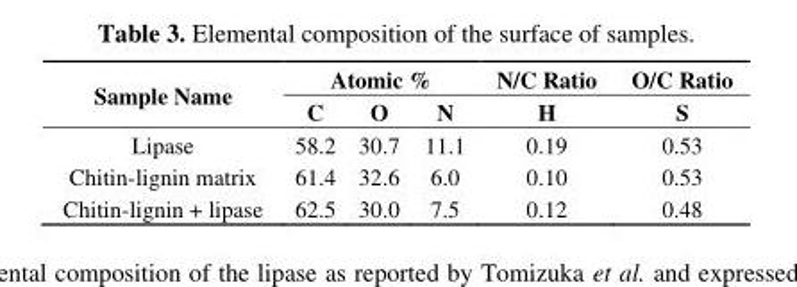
<table><thead><tr><td rowspan="2">Sample Name</td><td colspan="3">Atomic %</td><td rowspan="2">N/C Ratio H</td><td rowspan="2">O/C Ratio S</td></tr><tr><td>C</td><td>O</td><td>N</td></tr></thead><tbody><tr><td>Lipase</td><td>58.2</td><td>30.7</td><td>11.1</td><td>0.19</td><td>0.53</td></tr><tr><td>Chitin-lignin matrix</td><td>61.4</td><td>32.6</td><td>6.0</td><td>0.10</td><td>0.53</td></tr><tr><td>Chitin-lignin + lipase</td><td>62.5</td><td>30.0</td><td>7.5</td><td>0.12</td><td>0.48</td></tr></tbody></table>